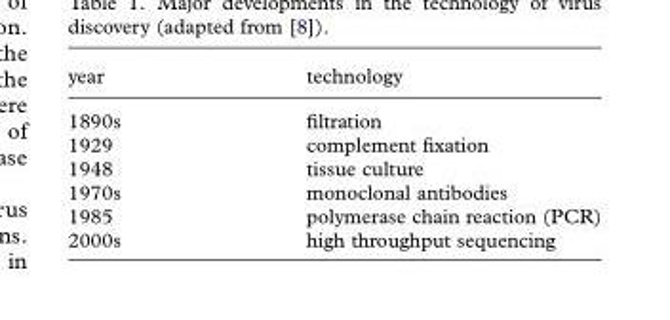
<table><thead><tr><td>year</td><td>technology</td></tr></thead><tbody><tr><td>1890s</td><td>filtration</td></tr><tr><td>1929</td><td>complement fixation</td></tr><tr><td>1948</td><td>tissue culture</td></tr><tr><td>1970s</td><td>monoclonal antibodies</td></tr><tr><td>1985</td><td>polymerase chain reaction (PCR)</td></tr><tr><td>2000s</td><td>high throughput sequencing</td></tr></tbody></table>